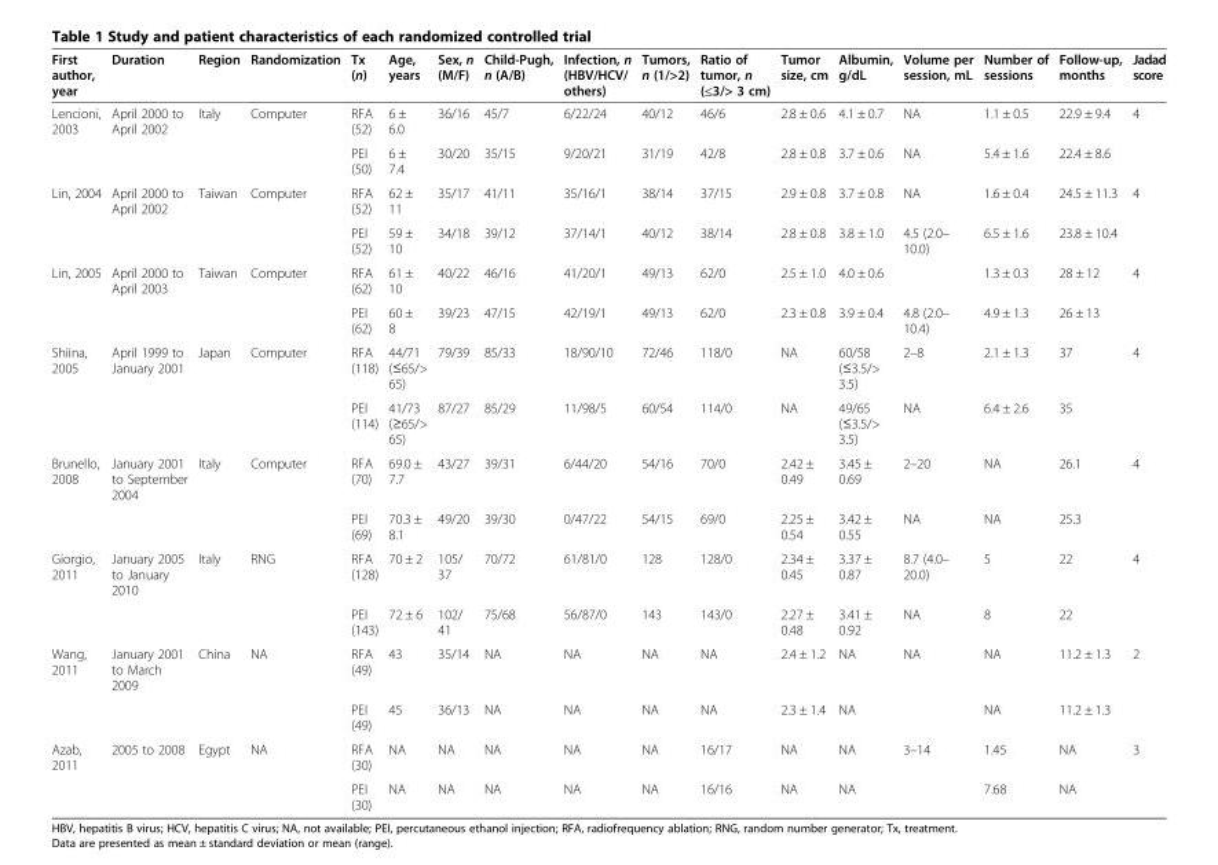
<table><thead><tr><td>First author, year</td><td>Duration</td><td>Region</td><td>Randomization</td><td>Tx (n)</td><td>Age, years</td><td>Sex, n (M/F)</td><td>Child-Pugh, n (A/B)</td><td>Infection, n (HBV/HCV/ others)</td><td>Tumors, n (1/&gt;2)</td><td>Ratio of tumor, n (≤3/&gt; 3 cm)</td><td>Tumor size, cm</td><td>Albumin, g/dL</td><td>Volume per session, mL</td><td>Number of sessions</td><td>Follow-up, months</td><td>Jadad score</td></tr></thead><tbody><tr><td rowspan="2">Lencioni, 2003</td><td>April 2000 to April 2002</td><td>Italy</td><td>Computer</td><td>RFA (52)</td><td>6 ± 6.0</td><td>36/16</td><td>45/7</td><td>6/22/24</td><td>40/12</td><td>46/6</td><td>2.8 ± 0.6</td><td>4.1 ± 0.7</td><td>NA</td><td>1.1 ± 0.5</td><td>22.9 ± 9.4</td><td>4</td></tr><tr><td></td><td></td><td></td><td>PEI (50)</td><td>6 ± 7.4</td><td>30/20</td><td>35/15</td><td>9/20/21</td><td>31/19</td><td>42/8</td><td>2.8 ± 0.8</td><td>3.7 ± 0.6</td><td>NA</td><td>5.4 ± 1.6</td><td>22.4 ± 8.6</td><td></td></tr><tr><td rowspan="2">Lin, 2004</td><td>April 2000 to April 2002</td><td>Taiwan</td><td>Computer</td><td>RFA (52)</td><td>62 ± 11</td><td>35/17</td><td>41/11</td><td>35/16/1</td><td>38/14</td><td>37/15</td><td>2.9 ± 0.8</td><td>3.7 ± 0.8</td><td>NA</td><td>1.6 ± 0.4</td><td>24.5 ± 11.3</td><td>4</td></tr><tr><td></td><td></td><td></td><td>PEI (52)</td><td>59 ± 10</td><td>34/18</td><td>39/12</td><td>37/14/1</td><td>40/12</td><td>38/14</td><td>2.8 ± 0.8</td><td>3.8 ± 1.0</td><td>4.5 (2.0– 10.0)</td><td>6.5 ± 1.6</td><td>23.8 ± 10.4</td><td></td></tr><tr><td rowspan="2">Lin, 2005</td><td>April 2000 to April 2003</td><td>Taiwan</td><td>Computer</td><td>RFA (62)</td><td>61 ± 10</td><td>40/22</td><td>46/16</td><td>41/20/1</td><td>49/13</td><td>62/0</td><td>2.5 ± 1.0</td><td>4.0 ± 0.6</td><td></td><td>1.3 ± 0.3</td><td>28 ± 12</td><td>4</td></tr><tr><td></td><td></td><td></td><td>PEI (62)</td><td>60 ± 8</td><td>39/23</td><td>47/15</td><td>42/19/1</td><td>49/13</td><td>62/0</td><td>2.3 ± 0.8</td><td>3.9 ± 0.4</td><td>4.8 (2.0– 10.4)</td><td>4.9 ± 1.3</td><td>26 ± 13</td><td></td></tr><tr><td rowspan="2">Shiina, 2005</td><td>April 1999 to January 2001</td><td>Japan</td><td>Computer</td><td>RFA (118)</td><td>44/71 (≤65/&gt; 65)</td><td>79/39</td><td>85/33</td><td>18/90/10</td><td>72/46</td><td>118/0</td><td>NA</td><td>60/58 (≤3.5/&gt; 3.5)</td><td>2–8</td><td>2.1 ± 1.3</td><td>37</td><td>4</td></tr><tr><td></td><td></td><td></td><td>PEI (114)</td><td>41/73 (≥65/&gt; 65)</td><td>87/27</td><td>85/29</td><td>11/98/5</td><td>60/54</td><td>114/0</td><td>NA</td><td>49/65 (≤3.5/&gt; 3.5)</td><td>NA</td><td>6.4 ± 2.6</td><td>35</td><td></td></tr><tr><td rowspan="2">Brunello, 2008</td><td>January 2001 to September 2004</td><td>Italy</td><td>Computer</td><td>RFA (70)</td><td>69.0 ± 7.7</td><td>43/27</td><td>39/31</td><td>6/44/20</td><td>54/16</td><td>70/0</td><td>2.42 ± 0.49</td><td>3.45 ± 0.69</td><td>2–20</td><td>NA</td><td>26.1</td><td>4</td></tr><tr><td></td><td></td><td></td><td>PEI (69)</td><td>70.3 ± 8.1</td><td>49/20</td><td>39/30</td><td>0/47/22</td><td>54/15</td><td>69/0</td><td>2.25 ± 0.54</td><td>3.42 ± 0.55</td><td>NA</td><td>NA</td><td>25.3</td><td></td></tr><tr><td rowspan="2">Giorgio, 2011</td><td>January 2005 to January 2010</td><td>Italy</td><td>RNG</td><td>RFA (128)</td><td>70 ± 2</td><td>105/ 37</td><td>70/72</td><td>61/81/0</td><td>128</td><td>128/0</td><td>2.34 ± 0.45</td><td>3.37 ± 0.87</td><td>8.7 (4.0– 20.0)</td><td>5</td><td>22</td><td>4</td></tr><tr><td></td><td></td><td></td><td>PEI (143)</td><td>72 ± 6</td><td>102/ 41</td><td>75/68</td><td>56/87/0</td><td>143</td><td>143/0</td><td>2.27 ± 0.48</td><td>3.41 ± 0.92</td><td>NA</td><td>8</td><td>22</td><td></td></tr><tr><td rowspan="2">Wang, 2011</td><td>January 2001 to March 2009</td><td>China</td><td>NA</td><td>RFA (49)</td><td>43</td><td>35/14</td><td>NA</td><td>NA</td><td>NA</td><td>NA</td><td>2.4 ± 1.2</td><td>NA</td><td>NA</td><td>NA</td><td>11.2 ± 1.3</td><td>2</td></tr><tr><td></td><td></td><td></td><td>PEI (49)</td><td>45</td><td>36/13</td><td>NA</td><td>NA</td><td>NA</td><td>NA</td><td>2.3 ± 1.4</td><td>NA</td><td></td><td>NA</td><td>11.2 ± 1.3</td><td></td></tr><tr><td rowspan="2">Azab, 2011</td><td>2005 to 2008</td><td>Egypt</td><td>NA</td><td>RFA (30)</td><td>NA</td><td>NA</td><td>NA</td><td>NA</td><td>NA</td><td>16/17</td><td>NA</td><td>NA</td><td>3–14</td><td>1.45</td><td>NA</td><td>3</td></tr><tr><td></td><td></td><td></td><td>PEI (30)</td><td>NA</td><td>NA</td><td>NA</td><td>NA</td><td>NA</td><td>16/16</td><td>NA</td><td>NA</td><td></td><td>7.68</td><td>NA</td><td></td></tr></tbody></table>